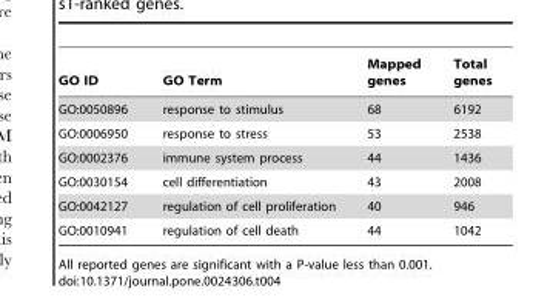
<table><thead><tr><td>GO ID</td><td>GO Term</td><td>Mapped genes</td><td>Total genes</td></tr></thead><tbody><tr><td>GO:0050896</td><td>response to stimulus</td><td>68</td><td>6192</td></tr><tr><td>GO:0006950</td><td>response to stress</td><td>53</td><td>2538</td></tr><tr><td>GO:0002376</td><td>immune system process</td><td>44</td><td>1436</td></tr><tr><td>GO:0030154</td><td>cell differentiation</td><td>43</td><td>2008</td></tr><tr><td>GO:0042127</td><td>regulation of cell proliferation</td><td>40</td><td>946</td></tr><tr><td>GO:0010941</td><td>regulation of cell death</td><td>44</td><td>1042</td></tr></tbody></table>